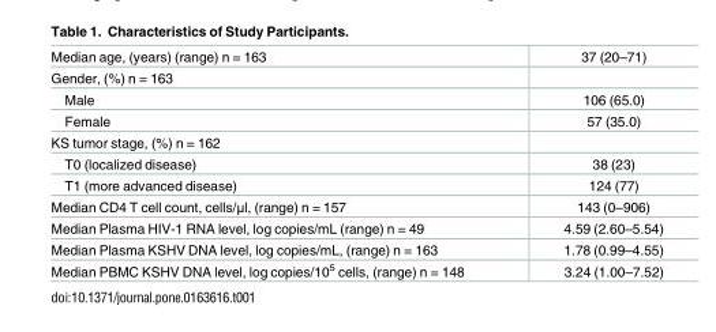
<table><tbody><tr><td>Median age, (years) (range) n = 163</td><td>37 (20–71)</td></tr><tr><td colspan="2">Gender, (%) n = 163</td></tr><tr><td>Male</td><td>106 (65.0)</td></tr><tr><td>Female</td><td>57 (35.0)</td></tr><tr><td colspan="2">KS tumor stage, (%) n = 162</td></tr><tr><td>T0 (localized disease)</td><td>38 (23)</td></tr><tr><td>T1 (more advanced disease)</td><td>124 (77)</td></tr><tr><td>Median CD4 T cell count, cells/μl, (range) n = 157</td><td>143 (0–906)</td></tr><tr><td>Median Plasma HIV-1 RNA level, log copies/mL (range) n = 49</td><td>4.59 (2.60–5.54)</td></tr><tr><td>Median Plasma KSHV DNA level, log copies/mL, (range) n = 163</td><td>1.78 (0.99–4.55)</td></tr><tr><td>Median PBMC KSHV DNA level, log copies/10<sup>5</sup> cells, (range) n = 148</td><td>3.24 (1.00–7.52)</td></tr></tbody></table>